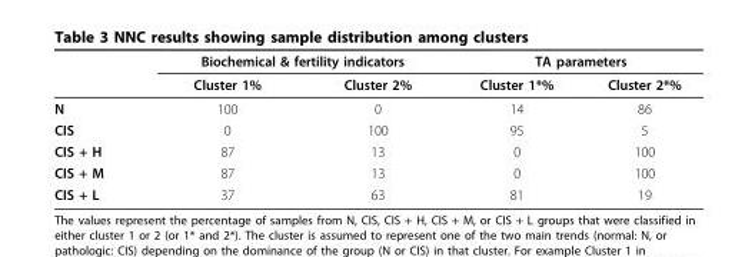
<table><thead><tr><td rowspan="2"></td><td colspan="2">Biochemical &amp; fertility indicators</td><td colspan="2">TA parameters</td></tr><tr><td>Cluster 1%</td><td>Cluster 2%</td><td>Cluster 1*%</td><td>Cluster 2*%</td></tr></thead><tbody><tr><td>N</td><td>100</td><td>0</td><td>14</td><td>86</td></tr><tr><td>CIS</td><td>0</td><td>100</td><td>95</td><td>5</td></tr><tr><td>CIS + H</td><td>87</td><td>13</td><td>0</td><td>100</td></tr><tr><td>CIS + M</td><td>87</td><td>13</td><td>0</td><td>100</td></tr><tr><td>CIS + L</td><td>37</td><td>63</td><td>81</td><td>19</td></tr></tbody></table>